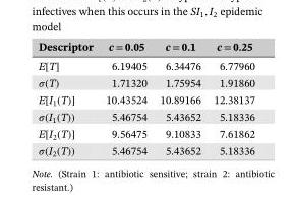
<table><thead><tr><td>Descriptor</td><td>c = 0.05</td><td>c = 0.1</td><td>c = 0.25</td></tr></thead><tbody><tr><td>E[T]</td><td>6.19405</td><td>6.34476</td><td>6.77960</td></tr><tr><td>𝜎(T)</td><td>1.71320</td><td>1.75954</td><td>1.91860</td></tr><tr><td>E[I<sub>1</sub>(T)]</td><td>10.43524</td><td>10.89166</td><td>12.38137</td></tr><tr><td>𝜎(I<sub>1</sub>(T))</td><td>5.46754</td><td>5.43652</td><td>5.18336</td></tr><tr><td>E[I<sub>2</sub>(T)]</td><td>9.56475</td><td>9.10833</td><td>7.61862</td></tr><tr><td>𝜎(I<sub>2</sub>(T))</td><td>5.46754</td><td>5.43652</td><td>5.18336</td></tr></tbody></table>